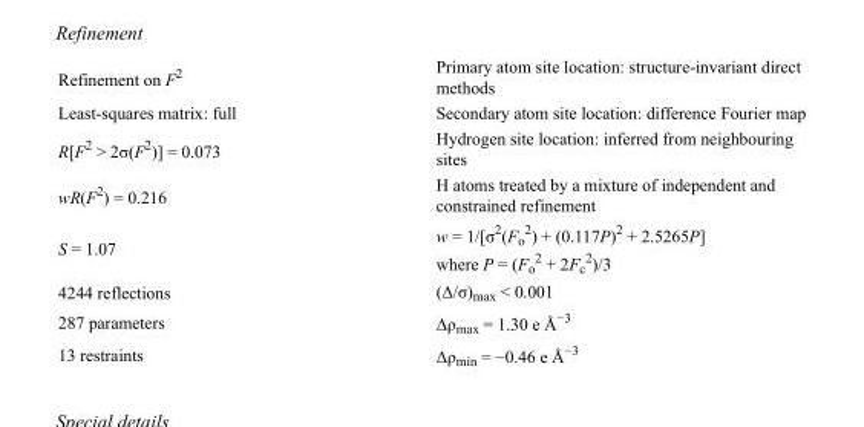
<table><tbody><tr><td>Refinement on F<sup>2</sup></td><td>Primary atom site location: structure-invariant direct methods</td></tr><tr><td>Least-squares matrix: full</td><td>Secondary atom site location: difference Fourier map</td></tr><tr><td>R[F<sup>2</sup> &gt; 2σ(F<sup>2</sup>)] = 0.073</td><td>Hydrogen site location: inferred from neighbouring sites</td></tr><tr><td>wR(F<sup>2</sup>) = 0.216</td><td>H atoms treated by a mixture of independent and constrained refinement</td></tr><tr><td>S = 1.07</td><td>w = 1/[σ<sup>2</sup>(F<sub>o</sub> <sup>2</sup>) + (0.117P)<sup>2</sup> + 2.5265P] where P = (F<sub>o</sub> <sup>2</sup> + 2F<sub>c</sub> <sup>2</sup>)/3</td></tr><tr><td>4244 reflections</td><td>(Δ/σ)<sub>max</sub> &lt; 0.001</td></tr><tr><td>287 parameters</td><td>Δρ<sub>max</sub> = 1.30 e Å<sup>−3</sup></td></tr><tr><td>13 restraints</td><td>Δρ<sub>min</sub> = −0.46 e Å<sup>−3</sup></td></tr></tbody></table>